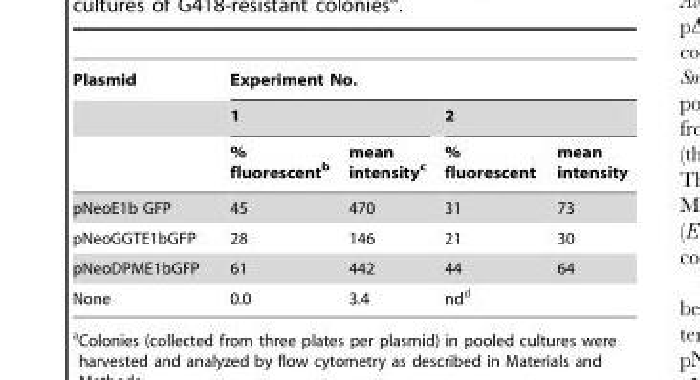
<table><thead><tr><td rowspan="3">Plasmid</td><td colspan="4">Experiment No.</td></tr><tr><td colspan="2">1</td><td colspan="2">2</td></tr><tr><td>% fluorescent<sup>b</sup></td><td>mean intensity<sup>c</sup></td><td>% fluorescent</td><td>mean intensity</td></tr></thead><tbody><tr><td>pNeoE1b GFP</td><td>45</td><td>470</td><td>31</td><td>73</td></tr><tr><td>pNeoGGTE1bGFP</td><td>28</td><td>146</td><td>21</td><td>30</td></tr><tr><td>pNeoDPME1bGFP</td><td>61</td><td>442</td><td>44</td><td>64</td></tr><tr><td>None</td><td>0.0</td><td>3.4</td><td colspan="2">nd<sup>d</sup></td></tr></tbody></table>